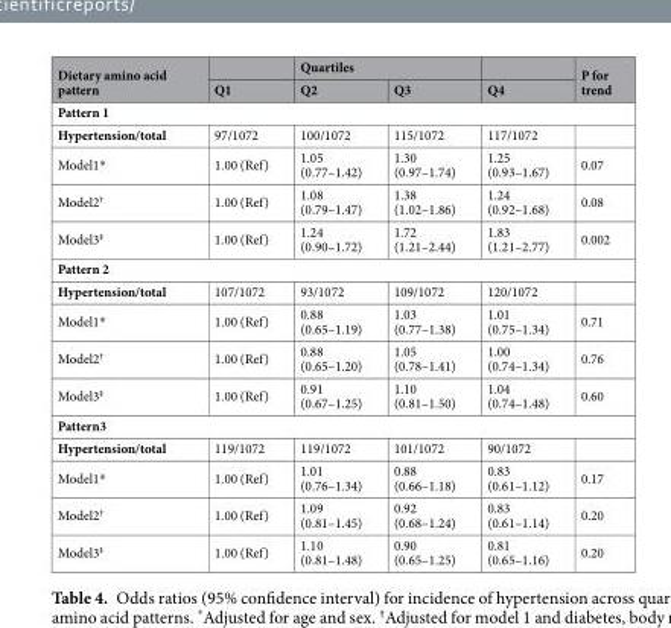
<table><thead><tr><td rowspan="2">Dietary amino acid pattern</td><td rowspan="2">Q1</td><td colspan="2">Quartiles</td><td rowspan="2">Q4</td><td rowspan="2">P for trend</td></tr><tr><td>Q2</td><td>Q3</td></tr></thead><tbody><tr><td colspan="6">Pattern 1</td></tr><tr><td>Hypertension/total</td><td>97/1072</td><td>100/1072</td><td>115/1072</td><td>117/1072</td><td></td></tr><tr><td>Model1*</td><td>1.00 (Ref)</td><td>1.05 (0.77–1.42)</td><td>1.30 (0.97–1.74)</td><td>1.25 (0.93–1.67)</td><td>0.07</td></tr><tr><td>Model2<sup>†</sup></td><td>1.00 (Ref)</td><td>1.08 (0.79–1.47)</td><td>1.38 (1.02–1.86)</td><td>1.24 (0.92–1.68)</td><td>0.08</td></tr><tr><td>Model3<sup>‡</sup></td><td>1.00 (Ref)</td><td>1.24 (0.90–1.72)</td><td>1.72 (1.21–2.44)</td><td>1.83 (1.21–2.77)</td><td>0.002</td></tr><tr><td colspan="6">Pattern 2</td></tr><tr><td>Hypertension/total</td><td>107/1072</td><td>93/1072</td><td>109/1072</td><td>120/1072</td><td></td></tr><tr><td>Model1*</td><td>1.00 (Ref)</td><td>0.88 (0.65–1.19)</td><td>1.03 (0.77–1.38)</td><td>1.01 (0.75–1.34)</td><td>0.71</td></tr><tr><td>Model2<sup>†</sup></td><td>1.00 (Ref)</td><td>0.88 (0.65–1.20)</td><td>1.05 (0.78–1.41)</td><td>1.00 (0.74–1.34)</td><td>0.76</td></tr><tr><td>Model3<sup>‡</sup></td><td>1.00 (Ref)</td><td>0.91 (0.67–1.25)</td><td>1.10 (0.81–1.50)</td><td>1.04 (0.74–1.48)</td><td>0.60</td></tr><tr><td colspan="6">Pattern3</td></tr><tr><td>Hypertension/total</td><td>119/1072</td><td>119/1072</td><td>101/1072</td><td>90/1072</td><td></td></tr><tr><td>Model1*</td><td>1.00 (Ref)</td><td>1.01 (0.76–1.34)</td><td>0.88 (0.66–1.18)</td><td>0.83 (0.61–1.12)</td><td>0.17</td></tr><tr><td>Model2<sup>†</sup></td><td>1.00 (Ref)</td><td>1.09 (0.81–1.45)</td><td>0.92 (0.68–1.24)</td><td>0.83 (0.61–1.14)</td><td>0.20</td></tr><tr><td>Model3<sup>‡</sup></td><td>1.00 (Ref)</td><td>1.10 (0.81–1.48)</td><td>0.90 (0.65–1.25)</td><td>0.81 (0.65–1.16)</td><td>0.20</td></tr></tbody></table>